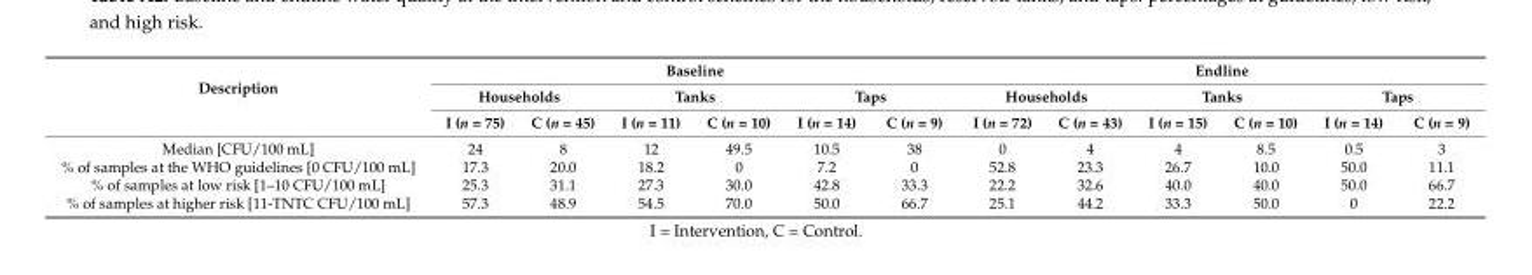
<table><thead><tr><td rowspan="3">Description</td><td colspan="6">Baseline</td><td colspan="6">Endline</td></tr><tr><td colspan="2">Households</td><td colspan="2">Tanks</td><td colspan="2">Taps</td><td colspan="2">Households</td><td colspan="2">Tanks</td><td colspan="2">Taps</td></tr><tr><td>I (n = 75)</td><td>C (n = 45)</td><td>I (n = 11)</td><td>C (n = 10)</td><td>I (n = 14)</td><td>C (n = 9)</td><td>I (n = 72)</td><td>C (n = 43)</td><td>I (n = 15)</td><td>C (n = 10)</td><td>I (n = 14)</td><td>C (n = 9)</td></tr></thead><tbody><tr><td>Median [CFU/100 mL]</td><td>24</td><td>8</td><td>12</td><td>49.5</td><td>10.5</td><td>38</td><td>0</td><td>4</td><td>4</td><td>8.5</td><td>0.5</td><td>3</td></tr><tr><td>% of samples at the WHO guidelines [0 CFU/100 mL]</td><td>17.3</td><td>20.0</td><td>18.2</td><td>0</td><td>7.2</td><td>0</td><td>52.8</td><td>23.3</td><td>26.7</td><td>10.0</td><td>50.0</td><td>11.1</td></tr><tr><td>% of samples at low risk [1–10 CFU/100 mL]</td><td>25.3</td><td>31.1</td><td>27.3</td><td>30.0</td><td>42.8</td><td>33.3</td><td>22.2</td><td>32.6</td><td>40.0</td><td>40.0</td><td>50.0</td><td>66.7</td></tr><tr><td>% of samples at higher risk [11-TNTC CFU/100 mL]</td><td>57.3</td><td>48.9</td><td>54.5</td><td>70.0</td><td>50.0</td><td>66.7</td><td>25.1</td><td>44.2</td><td>33.3</td><td>50.0</td><td>0</td><td>22.2</td></tr></tbody></table>